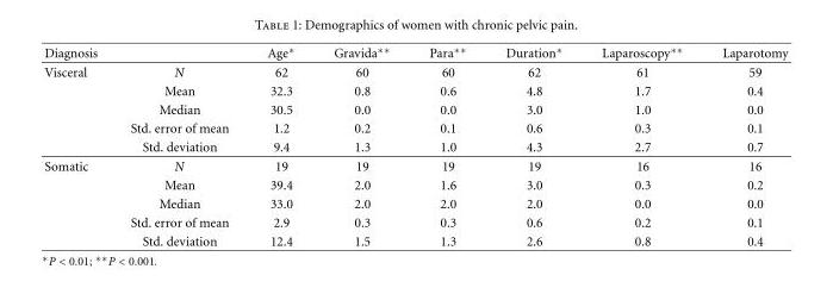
<table><thead><tr><td>Diagnosis</td><td></td><td>Age∗</td><td>Gravida∗∗</td><td>Para∗∗</td><td>Duration∗</td><td>Laparoscopy∗∗</td><td>Laparotomy</td></tr></thead><tbody><tr><td rowspan="5">Visceral</td><td>N</td><td>62</td><td>60</td><td>60</td><td>62</td><td>61</td><td>59</td></tr><tr><td>Mean</td><td>32.3</td><td>0.8</td><td>0.6</td><td>4.8</td><td>1.7</td><td>0.4</td></tr><tr><td>Median</td><td>30.5</td><td>0.0</td><td>0.0</td><td>3.0</td><td>1.0</td><td>0.0</td></tr><tr><td>Std. error of mean</td><td>1.2</td><td>0.2</td><td>0.1</td><td>0.6</td><td>0.3</td><td>0.1</td></tr><tr><td>Std. deviation</td><td>9.4</td><td>1.3</td><td>1.0</td><td>4.3</td><td>2.7</td><td>0.7</td></tr><tr><td rowspan="5">Somatic</td><td>N</td><td>19</td><td>19</td><td>19</td><td>19</td><td>16</td><td>16</td></tr><tr><td>Mean</td><td>39.4</td><td>2.0</td><td>1.6</td><td>3.0</td><td>0.3</td><td>0.2</td></tr><tr><td>Median</td><td>33.0</td><td>2.0</td><td>2.0</td><td>2.0</td><td>0.0</td><td>0.0</td></tr><tr><td>Std. error of mean</td><td>2.9</td><td>0.3</td><td>0.3</td><td>0.6</td><td>0.2</td><td>0.1</td></tr><tr><td>Std. deviation</td><td>12.4</td><td>1.5</td><td>1.3</td><td>2.6</td><td>0.8</td><td>0.4</td></tr></tbody></table>